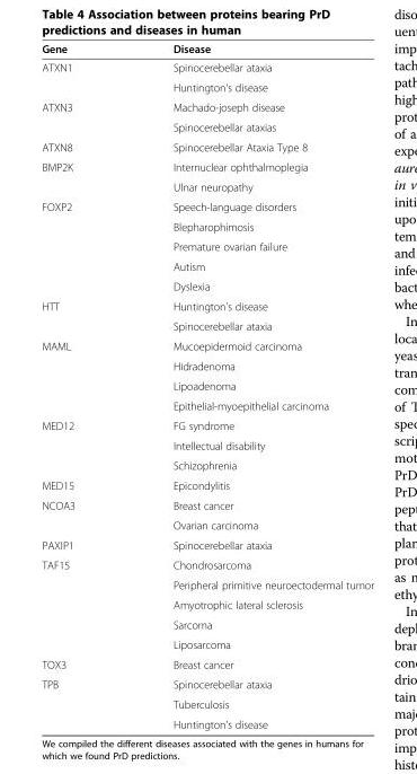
<table><thead><tr><td>Gene</td><td>Disease</td></tr></thead><tbody><tr><td rowspan="2">ATXN1</td><td>Spinocerebellar ataxia</td></tr><tr><td>Huntington’s disease</td></tr><tr><td rowspan="2">ATXN3</td><td>Machado-joseph disease</td></tr><tr><td>Spinocerebellar ataxias</td></tr><tr><td>ATXN8</td><td>Spinocerebellar Ataxia Type 8</td></tr><tr><td rowspan="2">BMP2K</td><td>Internuclear ophthalmoplegia</td></tr><tr><td>Ulnar neuropathy</td></tr><tr><td rowspan="5">FOXP2</td><td>Speech-language disorders</td></tr><tr><td>Blepharophimosis</td></tr><tr><td>Premature ovarian failure</td></tr><tr><td>Autism</td></tr><tr><td>Dyslexia</td></tr><tr><td rowspan="2">HTT</td><td>Huntington’s disease</td></tr><tr><td>Spinocerebellar ataxia</td></tr><tr><td rowspan="4">MAML</td><td>Mucoepidermoid carcinoma</td></tr><tr><td>Hidradenoma</td></tr><tr><td>Lipoadenoma</td></tr><tr><td>Epithelial-myoepithelial carcinoma</td></tr><tr><td rowspan="3">MED12</td><td>FG syndrome</td></tr><tr><td>Intellectual disability</td></tr><tr><td>Schizophrenia</td></tr><tr><td>MED15</td><td>Epicondylitis</td></tr><tr><td rowspan="2">NCOA3</td><td>Breast cancer</td></tr><tr><td>Ovarian carcinoma</td></tr><tr><td>PAXIP1</td><td>Spinocerebellar ataxia</td></tr><tr><td rowspan="5">TAF15</td><td>Chondrosarcoma</td></tr><tr><td>Peripheral primitive neuroectodermal tumor</td></tr><tr><td>Amyotrophic lateral sclerosis</td></tr><tr><td>Sarcoma</td></tr><tr><td>Liposarcoma</td></tr><tr><td>TOX3</td><td>Breast cancer</td></tr><tr><td rowspan="3">TPB</td><td>Spinocerebellar ataxia</td></tr><tr><td>Tuberculosis</td></tr><tr><td>Huntington’s disease</td></tr></tbody></table>